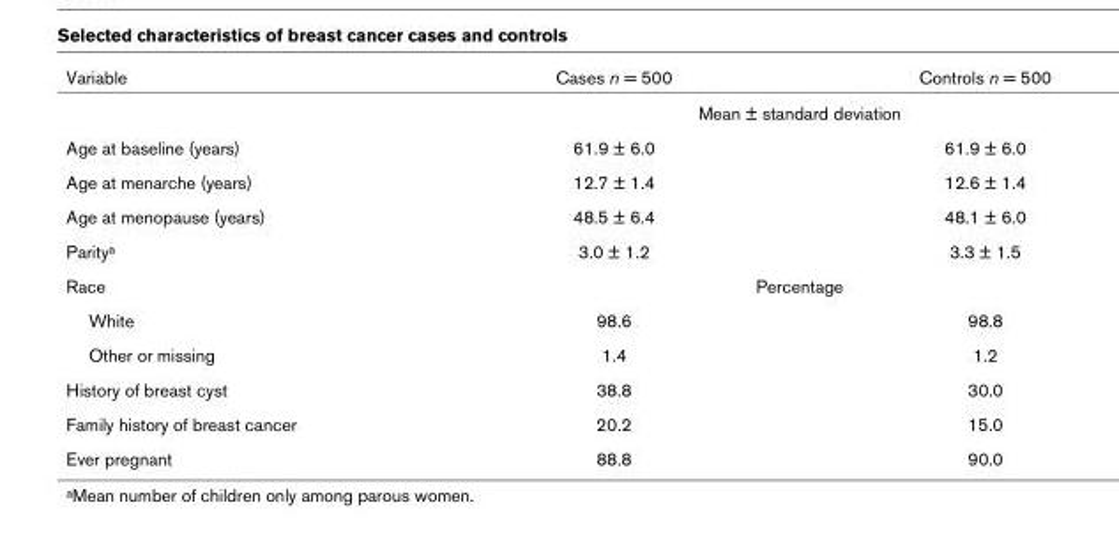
<table><thead><tr><td>Variable</td><td>Cases n = 500</td><td>Controls n = 500</td></tr></thead><tbody><tr><td></td><td colspan="2">Mean ± standard deviation</td></tr><tr><td>Age at baseline (years)</td><td>61.9 ± 6.0</td><td>61.9 ± 6.0</td></tr><tr><td>Age at menarche (years)</td><td>12.7 ± 1.4</td><td>12.6 ± 1.4</td></tr><tr><td>Age at menopause (years)</td><td>48.5 ± 6.4</td><td>48.1 ± 6.0</td></tr><tr><td>Paritya</td><td>3.0 ± 1.2</td><td>3.3 ± 1.5</td></tr><tr><td>Race</td><td colspan="2">Percentage</td></tr><tr><td>White</td><td>98.6</td><td>98.8</td></tr><tr><td>Other or missing</td><td>1.4</td><td>1.2</td></tr><tr><td>History of breast cyst</td><td>38.8</td><td>30.0</td></tr><tr><td>Family history of breast cancer</td><td>20.2</td><td>15.0</td></tr><tr><td>Ever pregnant</td><td>88.8</td><td>90.0</td></tr></tbody></table>